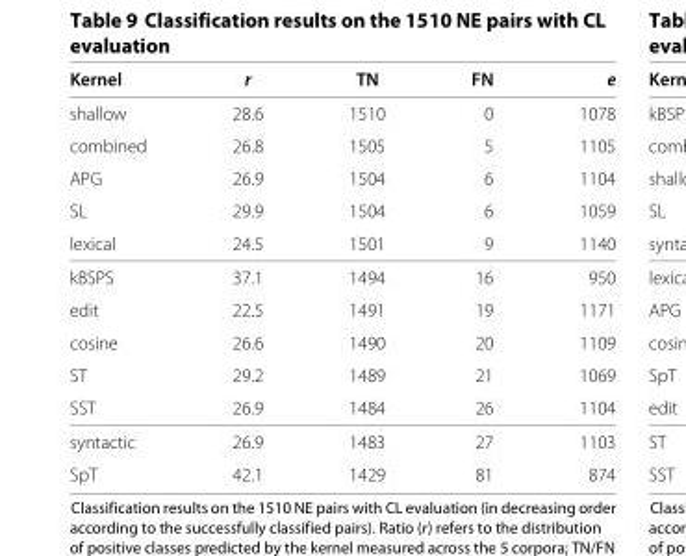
<table><thead><tr><td>Kernel</td><td>r</td><td>TN</td><td>FN</td><td>e</td></tr></thead><tbody><tr><td>shallow</td><td>28.6</td><td>1510</td><td>0</td><td>1078</td></tr><tr><td>combined</td><td>26.8</td><td>1505</td><td>5</td><td>1105</td></tr><tr><td>APG</td><td>26.9</td><td>1504</td><td>6</td><td>1104</td></tr><tr><td>SL</td><td>29.9</td><td>1504</td><td>6</td><td>1059</td></tr><tr><td>lexical</td><td>24.5</td><td>1501</td><td>9</td><td>1140</td></tr><tr><td>kBSPS</td><td>37.1</td><td>1494</td><td>16</td><td>950</td></tr><tr><td>edit</td><td>22.5</td><td>1491</td><td>19</td><td>1171</td></tr><tr><td>cosine</td><td>26.6</td><td>1490</td><td>20</td><td>1109</td></tr><tr><td>ST</td><td>29.2</td><td>1489</td><td>21</td><td>1069</td></tr><tr><td>SST</td><td>26.9</td><td>1484</td><td>26</td><td>1104</td></tr><tr><td>syntactic</td><td>26.9</td><td>1483</td><td>27</td><td>1103</td></tr><tr><td>SpT</td><td>42.1</td><td>1429</td><td>81</td><td>874</td></tr></tbody></table>